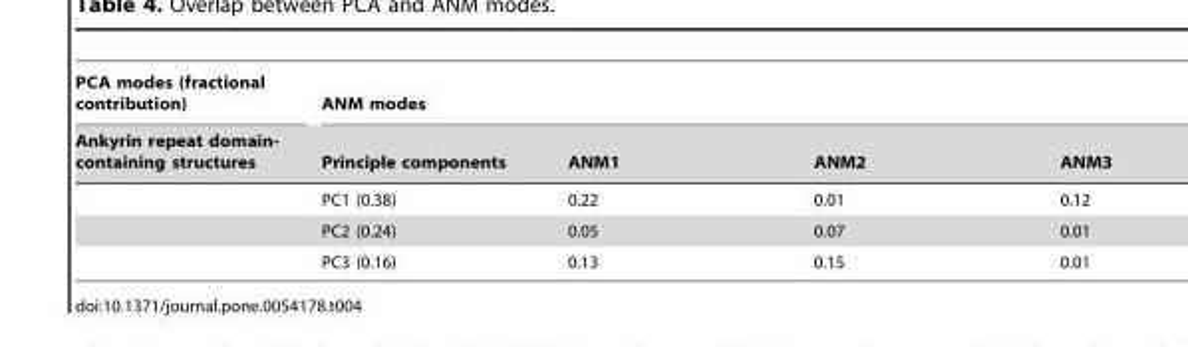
<table><thead><tr><td rowspan="2">PCA modes (fractional contribution) Ankyrin repeat domain- containing structures</td><td colspan="4">ANM modes</td></tr><tr><td>Principle components</td><td>ANM1</td><td>ANM2</td><td>ANM3</td></tr></thead><tbody><tr><td></td><td>PC1 (0.38)</td><td>0.22</td><td>0.01</td><td>0.12</td></tr><tr><td></td><td>PC2 (0.24)</td><td>0.05</td><td>0.07</td><td>0.01</td></tr><tr><td></td><td>PC3 (0.16)</td><td>0.13</td><td>0.15</td><td>0.01</td></tr></tbody></table>